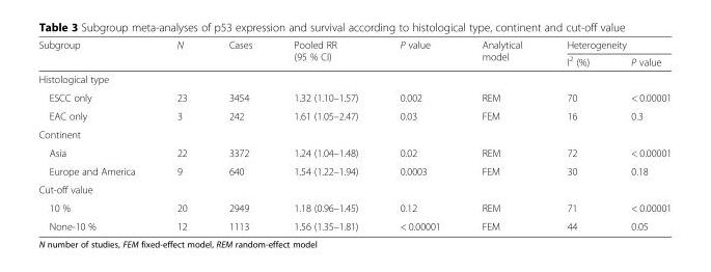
<table><thead><tr><td rowspan="2">Subgroup</td><td rowspan="2">N</td><td rowspan="2">Cases</td><td rowspan="2">Pooled RR (95 % CI)</td><td rowspan="2">P value</td><td rowspan="2">Analytical model</td><td colspan="2">Heterogeneity</td></tr><tr><td>I<sup>2</sup> (%)</td><td>P value</td></tr></thead><tbody><tr><td colspan="8">Histological type</td></tr><tr><td>ESCC only</td><td>23</td><td>3454</td><td>1.32 (1.10–1.57)</td><td>0.002</td><td>REM</td><td>70</td><td>&lt; 0.00001</td></tr><tr><td>EAC only</td><td>3</td><td>242</td><td>1.61 (1.05–2.47)</td><td>0.03</td><td>FEM</td><td>16</td><td>0.3</td></tr><tr><td colspan="8">Continent</td></tr><tr><td>Asia</td><td>22</td><td>3372</td><td>1.24 (1.04–1.48)</td><td>0.02</td><td>REM</td><td>72</td><td>&lt; 0.00001</td></tr><tr><td>Europe and America</td><td>9</td><td>640</td><td>1.54 (1.22–1.94)</td><td>0.0003</td><td>FEM</td><td>30</td><td>0.18</td></tr><tr><td colspan="8">Cut-off value</td></tr><tr><td>10 %</td><td>20</td><td>2949</td><td>1.18 (0.96–1.45)</td><td>0.12</td><td>REM</td><td>71</td><td>&lt; 0.00001</td></tr><tr><td>None-10 %</td><td>12</td><td>1113</td><td>1.56 (1.35–1.81)</td><td>&lt; 0.00001</td><td>FEM</td><td>44</td><td>0.05</td></tr></tbody></table>